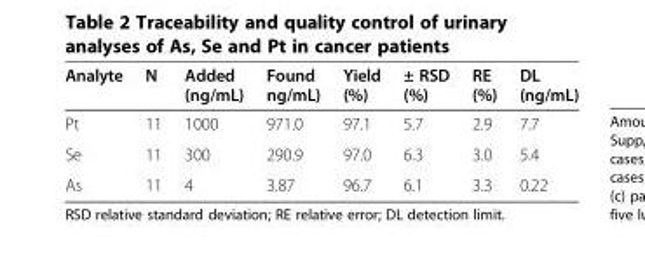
<table><thead><tr><td>Analyte</td><td>N</td><td>Added (ng/mL)</td><td>Found ng/mL)</td><td>Yield (%)</td><td>± RSD (%)</td><td>RE (%)</td><td>DL (ng/mL)</td></tr></thead><tbody><tr><td>Pt</td><td>11</td><td>1000</td><td>971.0</td><td>97.1</td><td>5.7</td><td>2.9</td><td>7.7</td></tr><tr><td>Se</td><td>11</td><td>300</td><td>290.9</td><td>97.0</td><td>6.3</td><td>3.0</td><td>5.4</td></tr><tr><td>As</td><td>11</td><td>4</td><td>3.87</td><td>96.7</td><td>6.1</td><td>3.3</td><td>0.22</td></tr></tbody></table>